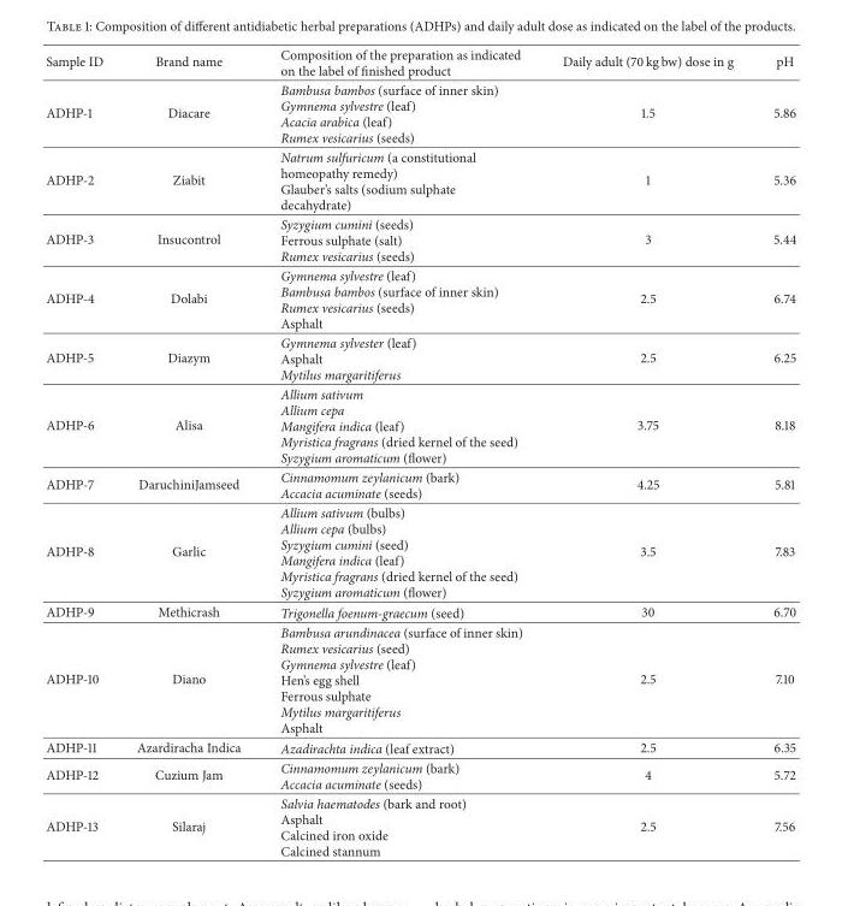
<table><thead><tr><td>Sample ID</td><td>Brand name</td><td>Composition of the preparation as indicated on the label of finished product</td><td>Daily adult (70 kg bw) dose in g</td><td>pH</td></tr></thead><tbody><tr><td>ADHP-1</td><td>Diacare</td><td>Bambusa bambos (surface of inner skin) Gymnema sylvestre (leaf) Acacia arabica (leaf) Rumex vesicarius (seeds)</td><td>1.5</td><td>5.86</td></tr><tr><td>ADHP-2</td><td>Ziabit</td><td>Natrum sulfuricum (a constitutional homeopathy remedy) Glauber’s salts (sodium sulphate decahydrate)</td><td>1</td><td>5.36</td></tr><tr><td>ADHP-3</td><td>Insucontrol</td><td>Syzygium cumini (seeds) Ferrous sulphate (salt) Rumex vesicarius (seeds)</td><td>3</td><td>5.44</td></tr><tr><td>ADHP-4</td><td>Dolabi</td><td>Gymnema sylvestre (leaf) Bambusa bambos (surface of inner skin) Rumex vesicarius (seeds) Asphalt</td><td>2.5</td><td>6.74</td></tr><tr><td>ADHP-5</td><td>Diazym</td><td>Gymnema sylvester (leaf) Asphalt Mytilus margaritiferus</td><td>2.5</td><td>6.25</td></tr><tr><td>ADHP-6</td><td>Alisa</td><td>Allium sativum Allium cepa Mangifera indica (leaf) Myristica fragrans (dried kernel of the seed) Syzygium aromaticum (flower)</td><td>3.75</td><td>8.18</td></tr><tr><td>ADHP-7</td><td>DaruchiniJamseed</td><td>Cinnamomum zeylanicum (bark) Accacia acuminate (seeds)</td><td>4.25</td><td>5.81</td></tr><tr><td>ADHP-8</td><td>Garlic</td><td>Allium sativum (bulbs) Allium cepa (bulbs) Syzygium cumini (seed) Mangifera indica (leaf) Myristica fragrans (dried kernel of the seed) Syzygium aromaticum (flower)</td><td>3.5</td><td>7.83</td></tr><tr><td>ADHP-9</td><td>Methicrash</td><td>Trigonella foenum-graecum (seed)</td><td>30</td><td>6.70</td></tr><tr><td>ADHP-10</td><td>Diano</td><td>Bambusa arundinacea (surface of inner skin) Rumex vesicarius (seed) Gymnema sylvestre (leaf) Hen’s egg shell Ferrous sulphate Mytilus margaritiferus Asphalt</td><td>2.5</td><td>7.10</td></tr><tr><td>ADHP-11</td><td>Azardiracha Indica</td><td>Azadirachta indica (leaf extract)</td><td>2.5</td><td>6.35</td></tr><tr><td>ADHP-12</td><td>Cuzium Jam</td><td>Cinnamomum zeylanicum (bark) Accacia acuminate (seeds)</td><td>4</td><td>5.72</td></tr><tr><td>ADHP-13</td><td>Silaraj</td><td>Salvia haematodes (bark and root) Asphalt Calcined iron oxide Calcined stannum</td><td>2.5</td><td>7.56</td></tr></tbody></table>